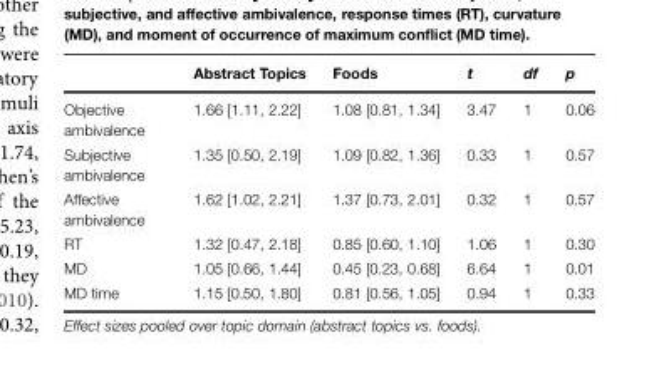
<table><thead><tr><td></td><td>Abstract Topics</td><td>Foods</td><td>t</td><td>df</td><td>p</td></tr></thead><tbody><tr><td>Objective ambivalence</td><td>1.66 [1.11, 2.22]</td><td>1.08 [0.81, 1.34]</td><td>3.47</td><td>1</td><td>0.06</td></tr><tr><td>Subjective ambivalence</td><td>1.35 [0.50, 2.19]</td><td>1.09 [0.82, 1.36]</td><td>0.33</td><td>1</td><td>0.57</td></tr><tr><td>Affective ambivalence</td><td>1.62 [1.02, 2.21]</td><td>1.37 [0.73, 2.01]</td><td>0.32</td><td>1</td><td>0.57</td></tr><tr><td>RT</td><td>1.32 [0.47, 2.18]</td><td>0.85 [0.60, 1.10]</td><td>1.06</td><td>1</td><td>0.30</td></tr><tr><td>MD</td><td>1.05 [0.66, 1.44]</td><td>0.45 [0.23, 0.68]</td><td>6.64</td><td>1</td><td>0.01</td></tr><tr><td>MD time</td><td>1.15 [0.50, 1.80]</td><td>0.81 [0.56, 1.05]</td><td>0.94</td><td>1</td><td>0.33</td></tr></tbody></table>